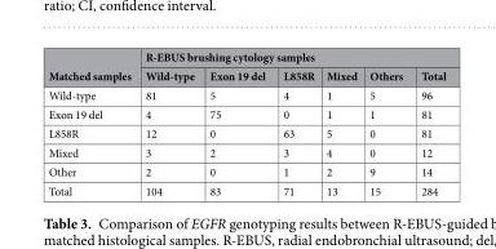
<table><thead><tr><td rowspan="2">Matched samples</td><td colspan="6">R-EBUS brushing cytology samples</td></tr><tr><td>Wild-type</td><td>Exon 19 del</td><td>L858R</td><td>Mixed</td><td>Others</td><td>Total</td></tr></thead><tbody><tr><td>Wild-type</td><td>81</td><td>5</td><td>4</td><td>1</td><td>5</td><td>96</td></tr><tr><td>Exon 19 del</td><td>4</td><td>75</td><td>0</td><td>1</td><td>1</td><td>81</td></tr><tr><td>L858R</td><td>12</td><td>0</td><td>63</td><td>5</td><td>0</td><td>81</td></tr><tr><td>Mixed</td><td>3</td><td>2</td><td>3</td><td>4</td><td>0</td><td>12</td></tr><tr><td>Other</td><td>2</td><td>0</td><td>1</td><td>2</td><td>9</td><td>14</td></tr><tr><td>Total</td><td>104</td><td>83</td><td>71</td><td>13</td><td>15</td><td>284</td></tr></tbody></table>